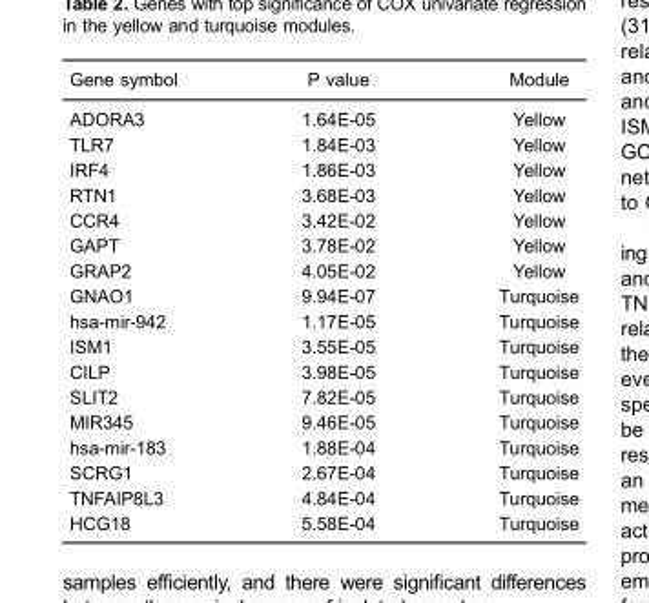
<table><thead><tr><td>Gene symbol</td><td>P value</td><td>Module</td></tr></thead><tbody><tr><td>ADORA3</td><td>1.64E-05</td><td>Yellow</td></tr><tr><td>TLR7</td><td>1.84E-03</td><td>Yellow</td></tr><tr><td>IRF4</td><td>1.86E-03</td><td>Yellow</td></tr><tr><td>RTN1</td><td>3.68E-03</td><td>Yellow</td></tr><tr><td>CCR4</td><td>3.42E-02</td><td>Yellow</td></tr><tr><td>GAPT</td><td>3.78E-02</td><td>Yellow</td></tr><tr><td>GRAP2</td><td>4.05E-02</td><td>Yellow</td></tr><tr><td>GNAO1</td><td>9.94E-07</td><td>Turquoise</td></tr><tr><td>hsa-mir-942</td><td>1.17E-05</td><td>Turquoise</td></tr><tr><td>ISM1</td><td>3.55E-05</td><td>Turquoise</td></tr><tr><td>CILP</td><td>3.98E-05</td><td>Turquoise</td></tr><tr><td>SLIT2</td><td>7.82E-05</td><td>Turquoise</td></tr><tr><td>MIR345</td><td>9.46E-05</td><td>Turquoise</td></tr><tr><td>hsa-mir-183</td><td>1.88E-04</td><td>Turquoise</td></tr><tr><td>SCRG1</td><td>2.67E-04</td><td>Turquoise</td></tr><tr><td>TNFAIP8L3</td><td>4.84E-04</td><td>Turquoise</td></tr><tr><td>HCG18</td><td>5.58E-04</td><td>Turquoise</td></tr></tbody></table>